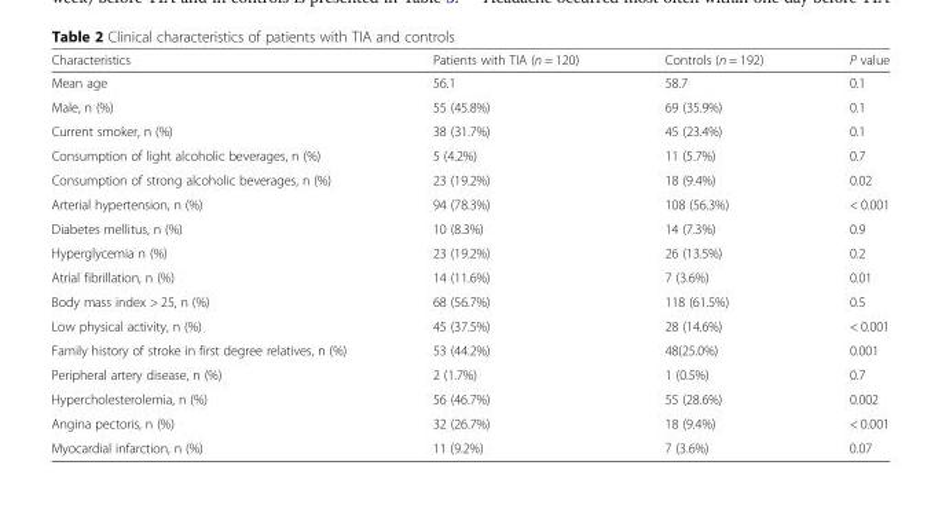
<table><thead><tr><td>Characteristics</td><td>Patients with TIA (n = 120)</td><td>Controls (n = 192)</td><td>Р value</td></tr></thead><tbody><tr><td>Mean age</td><td>56.1</td><td>58.7</td><td>0.1</td></tr><tr><td>Male, n (%)</td><td>55 (45.8%)</td><td>69 (35.9%)</td><td>0.1</td></tr><tr><td>Current smoker, n (%)</td><td>38 (31.7%)</td><td>45 (23.4%)</td><td>0.1</td></tr><tr><td>Consumption of light alcoholic beverages, n (%)</td><td>5 (4.2%)</td><td>11 (5.7%)</td><td>0.7</td></tr><tr><td>Consumption of strong alcoholic beverages, n (%)</td><td>23 (19.2%)</td><td>18 (9.4%)</td><td>0.02</td></tr><tr><td>Arterial hypertension, n (%)</td><td>94 (78.3%)</td><td>108 (56.3%)</td><td>&lt; 0.001</td></tr><tr><td>Diabetes mellitus, n (%)</td><td>10 (8.3%)</td><td>14 (7.3%)</td><td>0.9</td></tr><tr><td>Hyperglycemia n (%)</td><td>23 (19.2%)</td><td>26 (13.5%)</td><td>0.2</td></tr><tr><td>Atrial fibrillation, n (%)</td><td>14 (11.6%)</td><td>7 (3.6%)</td><td>0.01</td></tr><tr><td>Body mass index &gt; 25, n (%)</td><td>68 (56.7%)</td><td>118 (61.5%)</td><td>0.5</td></tr><tr><td>Low physical activity, n (%)</td><td>45 (37.5%)</td><td>28 (14.6%)</td><td>&lt; 0.001</td></tr><tr><td>Family history of stroke in first degree relatives, n (%)</td><td>53 (44.2%)</td><td>48(25.0%)</td><td>0.001</td></tr><tr><td>Peripheral artery disease, n (%)</td><td>2 (1.7%)</td><td>1 (0.5%)</td><td>0.7</td></tr><tr><td>Hypercholesterolemia, n (%)</td><td>56 (46.7%)</td><td>55 (28.6%)</td><td>0.002</td></tr><tr><td>Angina pectoris, n (%)</td><td>32 (26.7%)</td><td>18 (9.4%)</td><td>&lt; 0.001</td></tr><tr><td>Myocardial infarction, n (%)</td><td>11 (9.2%)</td><td>7 (3.6%)</td><td>0.07</td></tr></tbody></table>